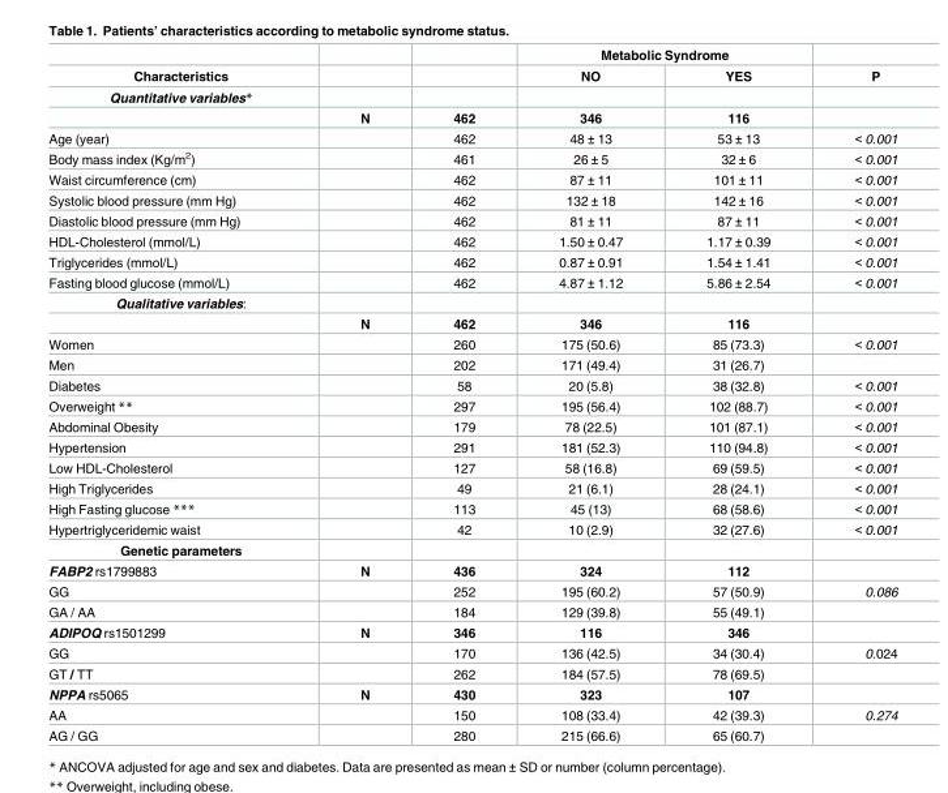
<table><thead><tr><td rowspan="2">Characteristics</td><td rowspan="2"></td><td rowspan="2"></td><td colspan="2">Metabolic Syndrome</td><td rowspan="2">P</td></tr><tr><td>NO</td><td>YES</td></tr></thead><tbody><tr><td colspan="6">Quantitative variables*</td></tr><tr><td></td><td>N</td><td>462</td><td>346</td><td>116</td><td></td></tr><tr><td>Age (year)</td><td></td><td>462</td><td>48 ± 13</td><td>53 ± 13</td><td>&lt; 0.001</td></tr><tr><td>Body mass index (Kg/m<sup>2</sup>)</td><td></td><td>461</td><td>26 ± 5</td><td>32 ± 6</td><td>&lt; 0.001</td></tr><tr><td>Waist circumference (cm)</td><td></td><td>462</td><td>87 ± 11</td><td>101 ± 11</td><td>&lt; 0.001</td></tr><tr><td>Systolic blood pressure (mm Hg)</td><td></td><td>462</td><td>132 ± 18</td><td>142 ± 16</td><td>&lt; 0.001</td></tr><tr><td>Diastolic blood pressure (mm Hg)</td><td></td><td>462</td><td>81 ± 11</td><td>87 ± 11</td><td>&lt; 0.001</td></tr><tr><td>HDL-Cholesterol (mmol/L)</td><td></td><td>462</td><td>1.50 ± 0.47</td><td>1.17 ± 0.39</td><td>&lt; 0.001</td></tr><tr><td>Triglycerides (mmol/L)</td><td></td><td>462</td><td>0.87 ± 0.91</td><td>1.54 ± 1.41</td><td>&lt; 0.001</td></tr><tr><td>Fasting blood glucose (mmol/L)</td><td></td><td>462</td><td>4.87 ± 1.12</td><td>5.86 ± 2.54</td><td>&lt; 0.001</td></tr><tr><td colspan="6">Qualitative variables:</td></tr><tr><td></td><td>N</td><td>462</td><td>346</td><td>116</td><td></td></tr><tr><td>Women</td><td></td><td>260</td><td>175 (50.6)</td><td>85 (73.3)</td><td>&lt; 0.001</td></tr><tr><td>Men</td><td></td><td>202</td><td>171 (49.4)</td><td>31 (26.7)</td><td></td></tr><tr><td>Diabetes</td><td></td><td>58</td><td>20 (5.8)</td><td>38 (32.8)</td><td>&lt; 0.001</td></tr><tr><td>Overweight **</td><td></td><td>297</td><td>195 (56.4)</td><td>102 (88.7)</td><td>&lt; 0.001</td></tr><tr><td>Abdominal Obesity</td><td></td><td>179</td><td>78 (22.5)</td><td>101 (87.1)</td><td>&lt; 0.001</td></tr><tr><td>Hypertension</td><td></td><td>291</td><td>181 (52.3)</td><td>110 (94.8)</td><td>&lt; 0.001</td></tr><tr><td>Low HDL-Cholesterol</td><td></td><td>127</td><td>58 (16.8)</td><td>69 (59.5)</td><td>&lt; 0.001</td></tr><tr><td>High Triglycerides</td><td></td><td>49</td><td>21 (6.1)</td><td>28 (24.1)</td><td>&lt; 0.001</td></tr><tr><td>High Fasting glucose ***</td><td></td><td>113</td><td>45 (13)</td><td>68 (58.6)</td><td>&lt; 0.001</td></tr><tr><td>Hypertriglyceridemic waist</td><td></td><td>42</td><td>10 (2.9)</td><td>32 (27.6)</td><td>&lt; 0.001</td></tr><tr><td colspan="6">Genetic parameters</td></tr><tr><td>FABP2 rs1799883</td><td>N</td><td>436</td><td>324</td><td>112</td><td></td></tr><tr><td>GG</td><td></td><td>252</td><td>195 (60.2)</td><td>57 (50.9)</td><td>0.086</td></tr><tr><td>GA / AA</td><td></td><td>184</td><td>129 (39.8)</td><td>55 (49.1)</td><td></td></tr><tr><td>ADIPOQ rs1501299</td><td>N</td><td>346</td><td>116</td><td>346</td><td></td></tr><tr><td>GG</td><td></td><td>170</td><td>136 (42.5)</td><td>34 (30.4)</td><td>0.024</td></tr><tr><td>GT / TT</td><td></td><td>262</td><td>184 (57.5)</td><td>78 (69.5)</td><td></td></tr><tr><td>NPPA rs5065</td><td>N</td><td>430</td><td>323</td><td>107</td><td></td></tr><tr><td>AA</td><td></td><td>150</td><td>108 (33.4)</td><td>42 (39.3)</td><td>0.274</td></tr><tr><td>AG / GG</td><td></td><td>280</td><td>215 (66.6)</td><td>65 (60.7)</td><td></td></tr></tbody></table>